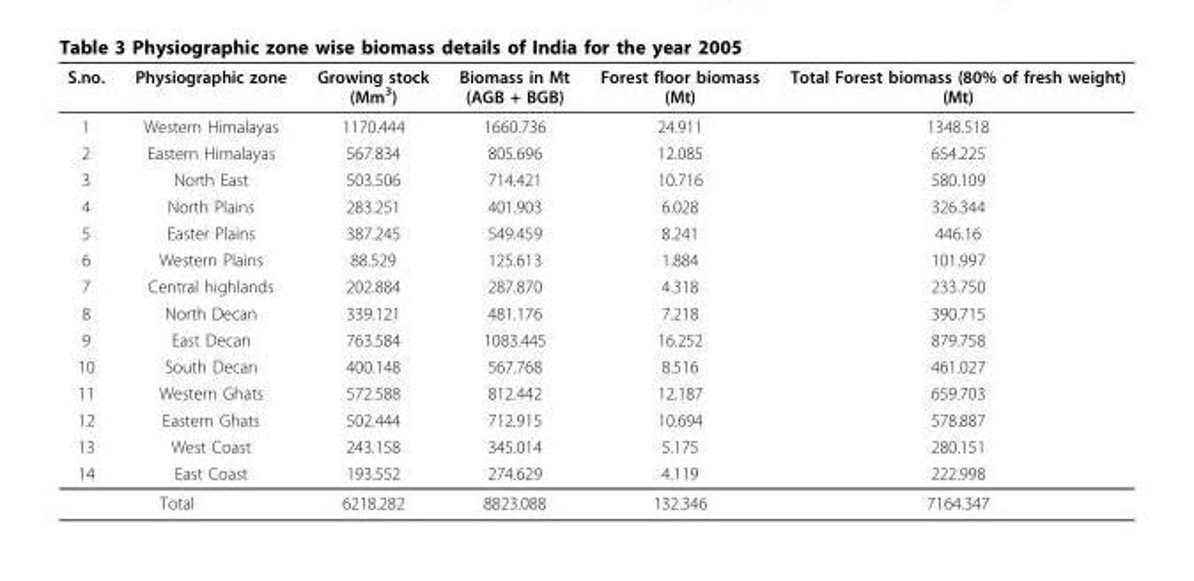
<table><thead><tr><td>S.no.</td><td>Physiographic zone</td><td>Growing stock (Mm<sup>3</sup>)</td><td>Biomass in Mt (AGB + BGB)</td><td>Forest floor biomass (Mt)</td><td>Total Forest biomass (80% of fresh weight) (Mt)</td></tr></thead><tbody><tr><td>1</td><td>Western Himalayas</td><td>1170.444</td><td>1660.736</td><td>24.911</td><td>1348.518</td></tr><tr><td>2</td><td>Eastern Himalayas</td><td>567.834</td><td>805.696</td><td>12.085</td><td>654.225</td></tr><tr><td>3</td><td>North East</td><td>503.506</td><td>714.421</td><td>10.716</td><td>580.109</td></tr><tr><td>4</td><td>North Plains</td><td>283.251</td><td>401.903</td><td>6.028</td><td>326.344</td></tr><tr><td>5</td><td>Easter Plains</td><td>387.245</td><td>549.459</td><td>8.241</td><td>446.16</td></tr><tr><td>6</td><td>Western Plains</td><td>88.529</td><td>125.613</td><td>1.884</td><td>101.997</td></tr><tr><td>7</td><td>Central highlands</td><td>202.884</td><td>287.870</td><td>4.318</td><td>233.750</td></tr><tr><td>8</td><td>North Decan</td><td>339.121</td><td>481.176</td><td>7.218</td><td>390.715</td></tr><tr><td>9</td><td>East Decan</td><td>763.584</td><td>1083.445</td><td>16.252</td><td>879.758</td></tr><tr><td>10</td><td>South Decan</td><td>400.148</td><td>567.768</td><td>8.516</td><td>461.027</td></tr><tr><td>11</td><td>Western Ghats</td><td>572.588</td><td>812.442</td><td>12.187</td><td>659.703</td></tr><tr><td>12</td><td>Eastern Ghats</td><td>502.444</td><td>712.915</td><td>10.694</td><td>578.887</td></tr><tr><td>13</td><td>West Coast</td><td>243.158</td><td>345.014</td><td>5.175</td><td>280.151</td></tr><tr><td>14</td><td>East Coast</td><td>193.552</td><td>274.629</td><td>4.119</td><td>222.998</td></tr><tr><td colspan="2">Total</td><td>6218.282</td><td>8823.088</td><td>132.346</td><td>7164.347</td></tr></tbody></table>